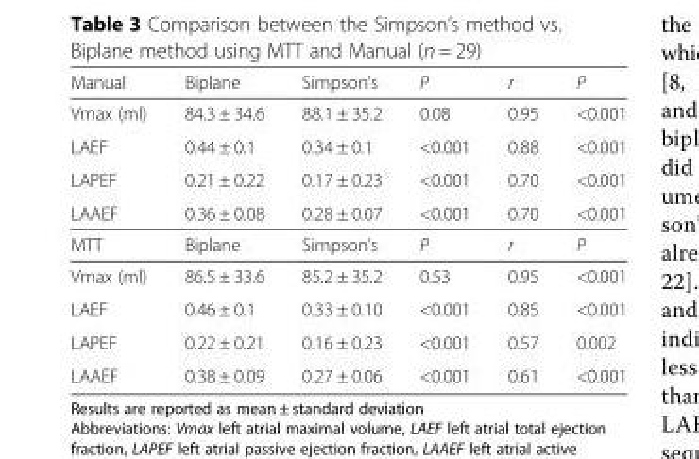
<table><tbody><tr><td>Manual</td><td>Biplane</td><td>Simpson’s</td><td>P</td><td>r</td><td>P</td></tr><tr><td>Vmax (ml)</td><td>84.3 ± 34.6</td><td>88.1 ± 35.2</td><td>0.08</td><td>0.95</td><td>&lt;0.001</td></tr><tr><td>LAEF</td><td>0.44 ± 0.1</td><td>0.34 ± 0.1</td><td>&lt;0.001</td><td>0.88</td><td>&lt;0.001</td></tr><tr><td>LAPEF</td><td>0.21 ± 0.22</td><td>0.17 ± 0.23</td><td>&lt;0.001</td><td>0.70</td><td>&lt;0.001</td></tr><tr><td>LAAEF</td><td>0.36 ± 0.08</td><td>0.28 ± 0.07</td><td>&lt;0.001</td><td>0.70</td><td>&lt;0.001</td></tr><tr><td>MTT</td><td>Biplane</td><td>Simpson’s</td><td>P</td><td>r</td><td>P</td></tr><tr><td>Vmax (ml)</td><td>86.5 ± 33.6</td><td>85.2 ± 35.2</td><td>0.53</td><td>0.95</td><td>&lt;0.001</td></tr><tr><td>LAEF</td><td>0.46 ± 0.1</td><td>0.33 ± 0.10</td><td>&lt;0.001</td><td>0.85</td><td>&lt;0.001</td></tr><tr><td>LAPEF</td><td>0.22 ± 0.21</td><td>0.16 ± 0.23</td><td>&lt;0.001</td><td>0.57</td><td>0.002</td></tr><tr><td>LAAEF</td><td>0.38 ± 0.09</td><td>0.27 ± 0.06</td><td>&lt;0.001</td><td>0.61</td><td>&lt;0.001</td></tr></tbody></table>